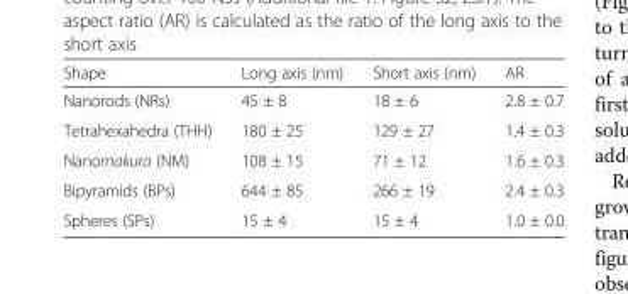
<table><thead><tr><td>Shape</td><td>Long axis (nm)</td><td>Short axis (nm)</td><td>AR</td></tr></thead><tbody><tr><td>Nanorods (NRs)</td><td>45 ± 8</td><td>18 ± 6</td><td>2.8 ± 0.7</td></tr><tr><td>Tetrahexahedra (THH)</td><td>180 ± 25</td><td>129 ± 27</td><td>1.4 ± 0.3</td></tr><tr><td>Nanomakura (NM)</td><td>108 ± 15</td><td>71 ± 12</td><td>1.6 ± 0.3</td></tr><tr><td>Bipyramids (BPs)</td><td>644 ± 85</td><td>266 ± 19</td><td>2.4 ± 0.3</td></tr><tr><td>Spheres (SPs)</td><td>15 ± 4</td><td>15 ± 4</td><td>1.0 ± 0.0</td></tr></tbody></table>